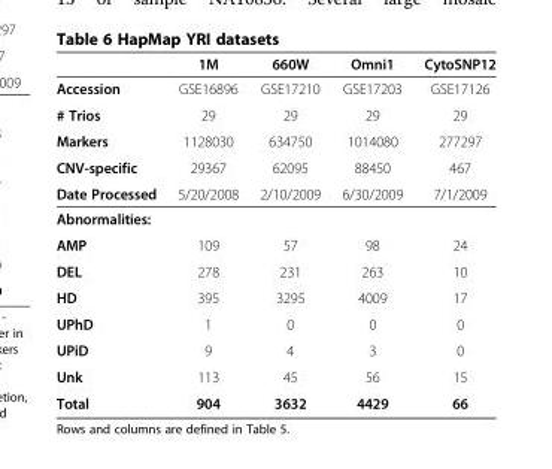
<table><thead><tr><td></td><td>1M</td><td>660W</td><td>Omni1</td><td>CytoSNP12</td></tr></thead><tbody><tr><td>Accession</td><td>GSE16896</td><td>GSE17210</td><td>GSE17203</td><td>GSE17126</td></tr><tr><td># Trios</td><td>29</td><td>29</td><td>29</td><td>29</td></tr><tr><td>Markers</td><td>1128030</td><td>634750</td><td>1014080</td><td>277297</td></tr><tr><td>CNV-specific</td><td>29367</td><td>62095</td><td>88450</td><td>467</td></tr><tr><td>Date Processed</td><td>5/20/2008</td><td>2/10/2009</td><td>6/30/2009</td><td>7/1/2009</td></tr><tr><td colspan="5">Abnormalities:</td></tr><tr><td>AMP</td><td>109</td><td>57</td><td>98</td><td>24</td></tr><tr><td>DEL</td><td>278</td><td>231</td><td>263</td><td>10</td></tr><tr><td>HD</td><td>395</td><td>3295</td><td>4009</td><td>17</td></tr><tr><td>UPhD</td><td>1</td><td>0</td><td>0</td><td>0</td></tr><tr><td>UPiD</td><td>9</td><td>4</td><td>3</td><td>0</td></tr><tr><td>Unk</td><td>113</td><td>45</td><td>56</td><td>15</td></tr><tr><td>Total</td><td>904</td><td>3632</td><td>4429</td><td>66</td></tr></tbody></table>